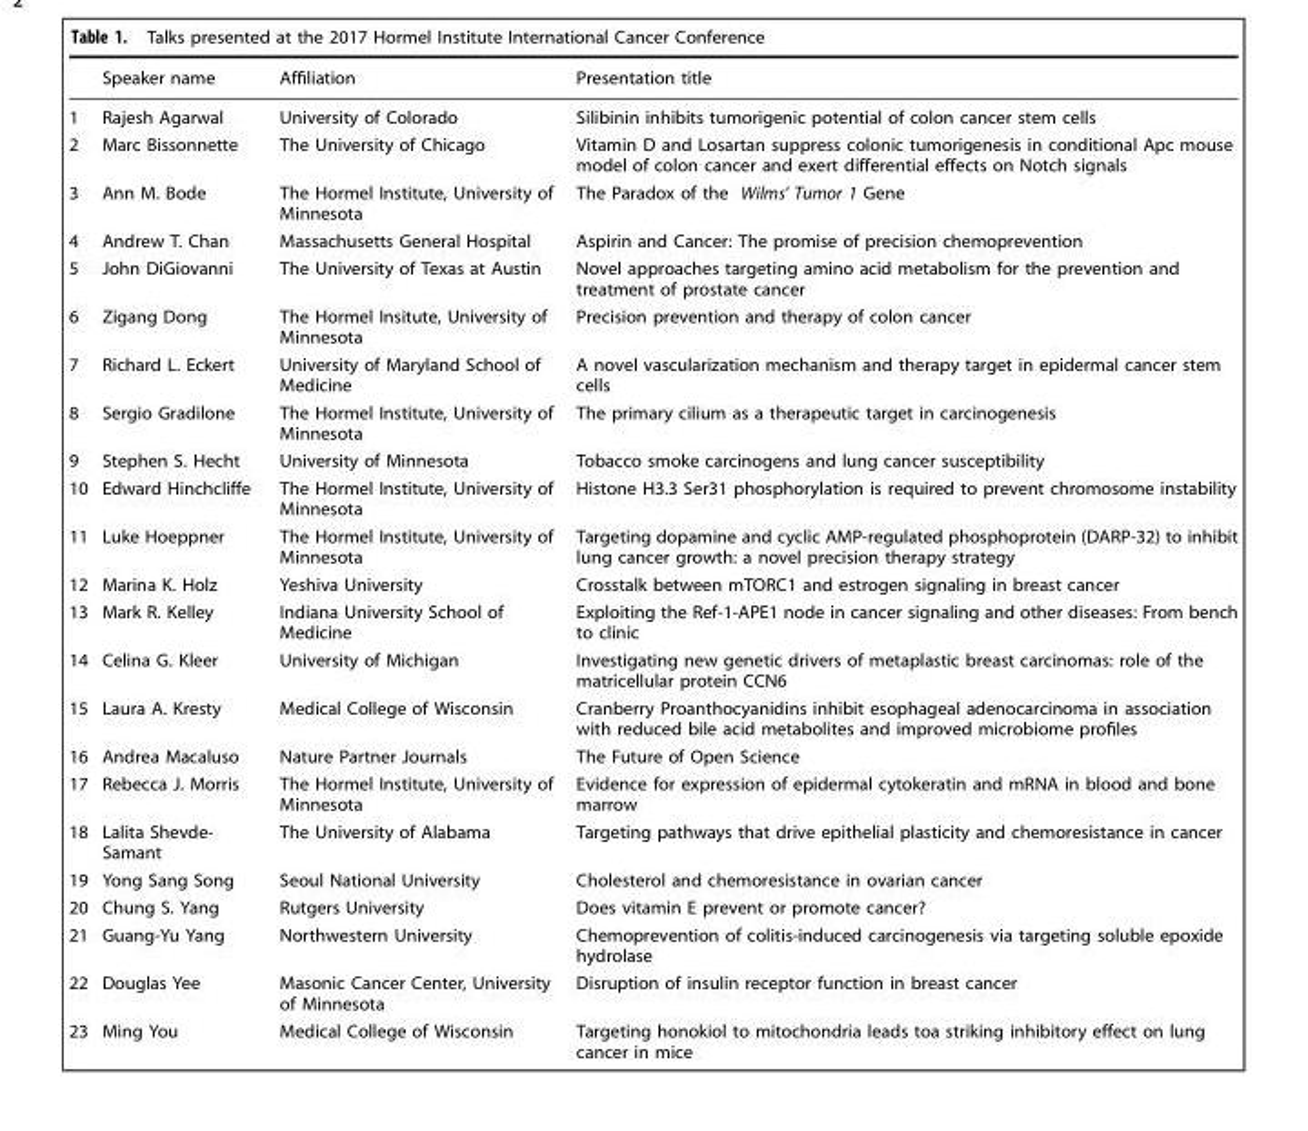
<table><thead><tr><td></td><td>Speaker name</td><td>Affiliation</td><td>Presentation title</td></tr></thead><tbody><tr><td>1</td><td>Rajesh Agarwal</td><td>University of Colorado</td><td>Silibinin inhibits tumorigenic potential of colon cancer stem cells</td></tr><tr><td>2</td><td>Marc Bissonnette</td><td>The University of Chicago</td><td>Vitamin D and Losartan suppress colonic tumorigenesis in conditional Apc mouse model of colon cancer and exert differential effects on Notch signals</td></tr><tr><td>3</td><td>Ann M. Bode</td><td>The Hormel Institute, University of Minnesota</td><td>The Paradox of the Wilms&#x27; Tumor 1 Gene</td></tr><tr><td>4</td><td>Andrew T. Chan</td><td>Massachusetts General Hospital</td><td>Aspirin and Cancer: The promise of precision chemoprevention</td></tr><tr><td>5</td><td>John DiGiovanni</td><td>The University of Texas at Austin</td><td>Novel approaches targeting amino acid metabolism for the prevention and treatment of prostate cancer</td></tr><tr><td>6</td><td>Zigang Dong</td><td>The Hormel Insitute, University of Minnesota</td><td>Precision prevention and therapy of colon cancer</td></tr><tr><td>7</td><td>Richard L. Eckert</td><td>University of Maryland School of Medicine</td><td>A novel vascularization mechanism and therapy target in epidermal cancer stem cells</td></tr><tr><td>8</td><td>Sergio Gradilone</td><td>The Hormel Institute, University of Minnesota</td><td>The primary cilium as a therapeutic target in carcinogenesis</td></tr><tr><td>9</td><td>Stephen S. Hecht</td><td>University of Minnesota</td><td>Tobacco smoke carcinogens and lung cancer susceptibility</td></tr><tr><td>10</td><td>Edward Hinchcliffe</td><td>The Hormel Institute, University of Minnesota</td><td>Histone H3.3 Ser31 phosphorylation is required to prevent chromosome instability</td></tr><tr><td>11</td><td>Luke Hoeppner</td><td>The Hormel Institute, University of Minnesota</td><td>Targeting dopamine and cyclic AMP-regulated phosphoprotein (DARP-32) to inhibit lung cancer growth: a novel precision therapy strategy</td></tr><tr><td>12</td><td>Marina K. Holz</td><td>Yeshiva University</td><td>Crosstalk between mTORC1 and estrogen signaling in breast cancer</td></tr><tr><td>13</td><td>Mark R. Kelley</td><td>Indiana University School of Medicine</td><td>Exploiting the Ref-1-APE1 node in cancer signaling and other diseases: From bench to clinic</td></tr><tr><td>14</td><td>Celina G. Kleer</td><td>University of Michigan</td><td>Investigating new genetic drivers of metaplastic breast carcinomas: role of the matricellular protein CCN6</td></tr><tr><td>15</td><td>Laura A. Kresty</td><td>Medical College of Wisconsin</td><td>Cranberry Proanthocyanidins inhibit esophageal adenocarcinoma in association with reduced bile acid metabolites and improved microbiome profiles</td></tr><tr><td>16</td><td>Andrea Macaluso</td><td>Nature Partner Journals</td><td>The Future of Open Science</td></tr><tr><td>17</td><td>Rebecca J. Morris</td><td>The Hormel Institute, University of Minnesota</td><td>Evidence for expression of epidermal cytokeratin and mRNA in blood and bone marrow</td></tr><tr><td>18</td><td>Lalita Shevde- Samant</td><td>The University of Alabama</td><td>Targeting pathways that drive epithelial plasticity and chemoresistance in cancer</td></tr><tr><td>19</td><td>Yong Sang Song</td><td>Seoul National University</td><td>Cholesterol and chemoresistance in ovarian cancer</td></tr><tr><td>20</td><td>Chung S. Yang</td><td>Rutgers University</td><td>Does vitamin E prevent or promote cancer?</td></tr><tr><td>21</td><td>Guang-Yu Yang</td><td>Northwestern University</td><td>Chemoprevention of colitis-induced carcinogenesis via targeting soluble epoxide hydrolase</td></tr><tr><td>22</td><td>Douglas Yee</td><td>Masonic Cancer Center, University of Minnesota</td><td>Disruption of insulin receptor function in breast cancer</td></tr><tr><td>23</td><td>Ming You</td><td>Medical College of Wisconsin</td><td>Targeting honokiol to mitochondria leads toa striking inhibitory effect on lung cancer in mice</td></tr></tbody></table>